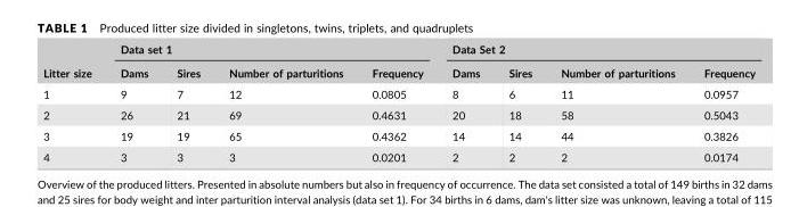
<table><thead><tr><td rowspan="2">Litter size</td><td colspan="4">Data set 1</td><td colspan="4">Data Set 2</td></tr><tr><td>Dams</td><td>Sires</td><td>Number of parturitions</td><td>Frequency</td><td>Dams</td><td>Sires</td><td>Number of parturitions</td><td>Frequency</td></tr></thead><tbody><tr><td>1</td><td>9</td><td>7</td><td>12</td><td>0.0805</td><td>8</td><td>6</td><td>11</td><td>0.0957</td></tr><tr><td>2</td><td>26</td><td>21</td><td>69</td><td>0.4631</td><td>20</td><td>18</td><td>58</td><td>0.5043</td></tr><tr><td>3</td><td>19</td><td>19</td><td>65</td><td>0.4362</td><td>14</td><td>14</td><td>44</td><td>0.3826</td></tr><tr><td>4</td><td>3</td><td>3</td><td>3</td><td>0.0201</td><td>2</td><td>2</td><td>2</td><td>0.0174</td></tr></tbody></table>